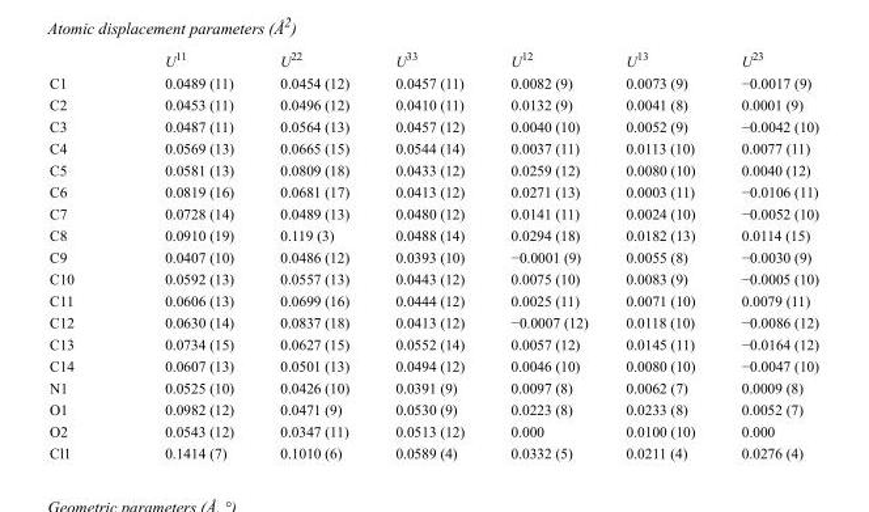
<table><thead><tr><td></td><td>U<sup>11</sup></td><td>U<sup>22</sup></td><td>U<sup>33</sup></td><td>U<sup>12</sup></td><td>U<sup>13</sup></td><td>U<sup>23</sup></td></tr></thead><tbody><tr><td>C1</td><td>0.0489 (11)</td><td>0.0454 (12)</td><td>0.0457 (11)</td><td>0.0082 (9)</td><td>0.0073 (9)</td><td>−0.0017 (9)</td></tr><tr><td>C2</td><td>0.0453 (11)</td><td>0.0496 (12)</td><td>0.0410 (11)</td><td>0.0132 (9)</td><td>0.0041 (8)</td><td>0.0001 (9)</td></tr><tr><td>C3</td><td>0.0487 (11)</td><td>0.0564 (13)</td><td>0.0457 (12)</td><td>0.0040 (10)</td><td>0.0052 (9)</td><td>−0.0042 (10)</td></tr><tr><td>C4</td><td>0.0569 (13)</td><td>0.0665 (15)</td><td>0.0544 (14)</td><td>0.0037 (11)</td><td>0.0113 (10)</td><td>0.0077 (11)</td></tr><tr><td>C5</td><td>0.0581 (13)</td><td>0.0809 (18)</td><td>0.0433 (12)</td><td>0.0259 (12)</td><td>0.0080 (10)</td><td>0.0040 (12)</td></tr><tr><td>C6</td><td>0.0819 (16)</td><td>0.0681 (17)</td><td>0.0413 (12)</td><td>0.0271 (13)</td><td>0.0003 (11)</td><td>−0.0106 (11)</td></tr><tr><td>C7</td><td>0.0728 (14)</td><td>0.0489 (13)</td><td>0.0480 (12)</td><td>0.0141 (11)</td><td>0.0024 (10)</td><td>−0.0052 (10)</td></tr><tr><td>C8</td><td>0.0910 (19)</td><td>0.119 (3)</td><td>0.0488 (14)</td><td>0.0294 (18)</td><td>0.0182 (13)</td><td>0.0114 (15)</td></tr><tr><td>C9</td><td>0.0407 (10)</td><td>0.0486 (12)</td><td>0.0393 (10)</td><td>−0.0001 (9)</td><td>0.0055 (8)</td><td>−0.0030 (9)</td></tr><tr><td>C10</td><td>0.0592 (13)</td><td>0.0557 (13)</td><td>0.0443 (12)</td><td>0.0075 (10)</td><td>0.0083 (9)</td><td>−0.0005 (10)</td></tr><tr><td>C11</td><td>0.0606 (13)</td><td>0.0699 (16)</td><td>0.0444 (12)</td><td>0.0025 (11)</td><td>0.0071 (10)</td><td>0.0079 (11)</td></tr><tr><td>C12</td><td>0.0630 (14)</td><td>0.0837 (18)</td><td>0.0413 (12)</td><td>−0.0007 (12)</td><td>0.0118 (10)</td><td>−0.0086 (12)</td></tr><tr><td>C13</td><td>0.0734 (15)</td><td>0.0627 (15)</td><td>0.0552 (14)</td><td>0.0057 (12)</td><td>0.0145 (11)</td><td>−0.0164 (12)</td></tr><tr><td>C14</td><td>0.0607 (13)</td><td>0.0501 (13)</td><td>0.0494 (12)</td><td>0.0046 (10)</td><td>0.0080 (10)</td><td>−0.0047 (10)</td></tr><tr><td>N1</td><td>0.0525 (10)</td><td>0.0426 (10)</td><td>0.0391 (9)</td><td>0.0097 (8)</td><td>0.0062 (7)</td><td>0.0009 (8)</td></tr><tr><td>O1</td><td>0.0982 (12)</td><td>0.0471 (9)</td><td>0.0530 (9)</td><td>0.0223 (8)</td><td>0.0233 (8)</td><td>0.0052 (7)</td></tr><tr><td>O2</td><td>0.0543 (12)</td><td>0.0347 (11)</td><td>0.0513 (12)</td><td>0.000</td><td>0.0100 (10)</td><td>0.000</td></tr><tr><td>Cl1</td><td>0.1414 (7)</td><td>0.1010 (6)</td><td>0.0589 (4)</td><td>0.0332 (5)</td><td>0.0211 (4)</td><td>0.0276 (4)</td></tr></tbody></table>